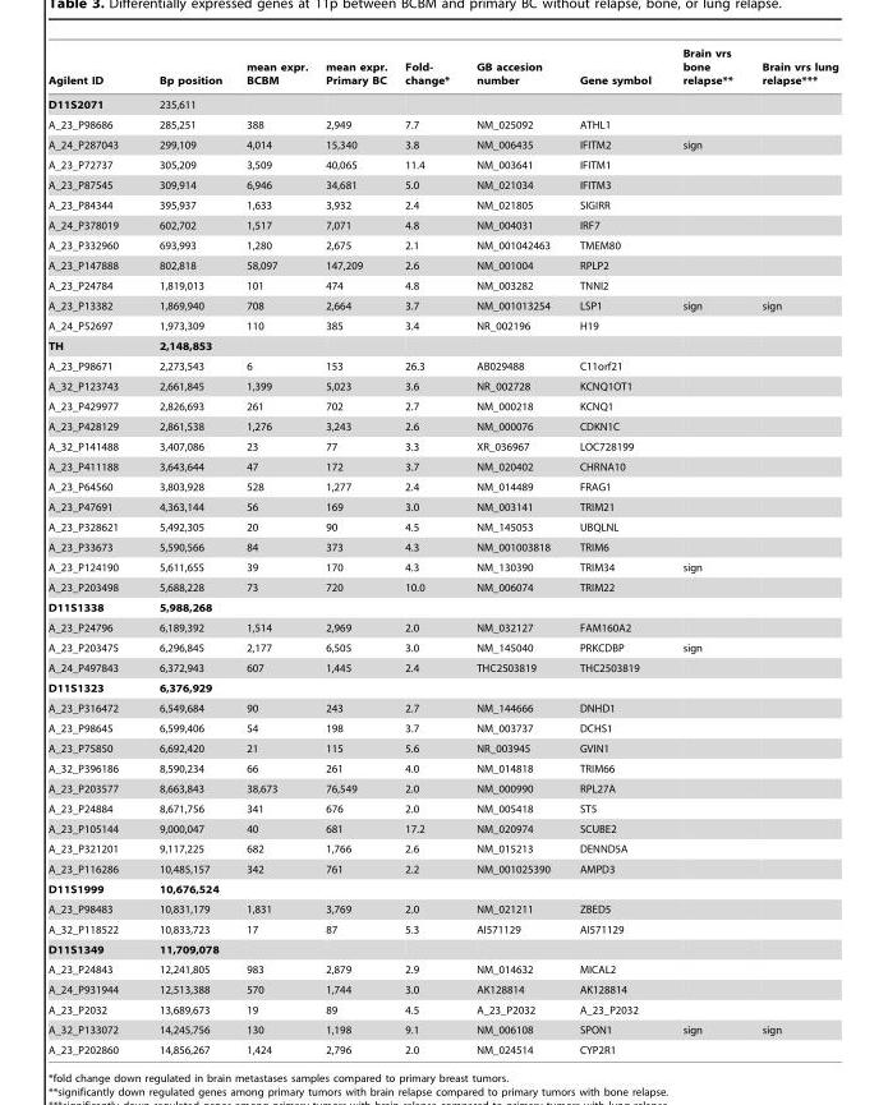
<table><thead><tr><td>Agilent ID</td><td>Bp position</td><td>mean expr. BCBM</td><td>mean expr. Primary BC</td><td>Fold- change*</td><td>GB accesion number</td><td>Gene symbol</td><td>Brain vrs bone relapse**</td><td>Brain vrs lung relapse***</td></tr></thead><tbody><tr><td>D11S2071</td><td>235,611</td><td></td><td></td><td></td><td></td><td></td><td></td><td></td></tr><tr><td>A_23_P98686</td><td>285,251</td><td>388</td><td>2,949</td><td>7.7</td><td>NM_025092</td><td>ATHL1</td><td></td><td></td></tr><tr><td>A_24_P287043</td><td>299,109</td><td>4,014</td><td>15,340</td><td>3.8</td><td>NM_006435</td><td>IFITM2</td><td>sign</td><td></td></tr><tr><td>A_23_P72737</td><td>305,209</td><td>3,509</td><td>40,065</td><td>11.4</td><td>NM_003641</td><td>IFITM1</td><td></td><td></td></tr><tr><td>A_23_P87545</td><td>309,914</td><td>6,946</td><td>34,681</td><td>5.0</td><td>NM_021034</td><td>IFITM3</td><td></td><td></td></tr><tr><td>A_23_P84344</td><td>395,937</td><td>1,633</td><td>3,932</td><td>2.4</td><td>NM_021805</td><td>SIGIRR</td><td></td><td></td></tr><tr><td>A_24_P378019</td><td>602,702</td><td>1,517</td><td>7,071</td><td>4.8</td><td>NM_004031</td><td>IRF7</td><td></td><td></td></tr><tr><td>A_23_P332960</td><td>693,993</td><td>1,280</td><td>2,675</td><td>2.1</td><td>NM_001042463</td><td>TMEM80</td><td></td><td></td></tr><tr><td>A_23_P147888</td><td>802,818</td><td>58,097</td><td>147,209</td><td>2.6</td><td>NM_001004</td><td>RPLP2</td><td></td><td></td></tr><tr><td>A_23_P24784</td><td>1,819,013</td><td>101</td><td>474</td><td>4.8</td><td>NM_003282</td><td>TNNI2</td><td></td><td></td></tr><tr><td>A_23_P13382</td><td>1,869,940</td><td>708</td><td>2,664</td><td>3.7</td><td>NM_001013254</td><td>LSP1</td><td>sign</td><td>sign</td></tr><tr><td>A_24_P52697</td><td>1,973,309</td><td>110</td><td>385</td><td>3.4</td><td>NR_002196</td><td>H19</td><td></td><td></td></tr><tr><td>TH</td><td>2,148,853</td><td></td><td></td><td></td><td></td><td></td><td></td><td></td></tr><tr><td>A_23_P98671</td><td>2,273,543</td><td>6</td><td>153</td><td>26.3</td><td>AB029488</td><td>C11orf21</td><td></td><td></td></tr><tr><td>A_32_P123743</td><td>2,661,845</td><td>1,399</td><td>5,023</td><td>3.6</td><td>NR_002728</td><td>KCNQ1OT1</td><td></td><td></td></tr><tr><td>A_23_P429977</td><td>2,826,693</td><td>261</td><td>702</td><td>2.7</td><td>NM_000218</td><td>KCNQ1</td><td></td><td></td></tr><tr><td>A_23_P428129</td><td>2,861,538</td><td>1,276</td><td>3,243</td><td>2.6</td><td>NM_000076</td><td>CDKN1C</td><td></td><td></td></tr><tr><td>A_32_P141488</td><td>3,407,086</td><td>23</td><td>77</td><td>3.3</td><td>XR_036967</td><td>LOC728199</td><td></td><td></td></tr><tr><td>A_23_P411188</td><td>3,643,644</td><td>47</td><td>172</td><td>3.7</td><td>NM_020402</td><td>CHRNA10</td><td></td><td></td></tr><tr><td>A_23_P64560</td><td>3,803,928</td><td>528</td><td>1,277</td><td>2.4</td><td>NM_014489</td><td>FRAG1</td><td></td><td></td></tr><tr><td>A_23_P47691</td><td>4,363,144</td><td>56</td><td>169</td><td>3.0</td><td>NM_003141</td><td>TRIM21</td><td></td><td></td></tr><tr><td>A_23_P328621</td><td>5,492,305</td><td>20</td><td>90</td><td>4.5</td><td>NM_145053</td><td>UBQLNL</td><td></td><td></td></tr><tr><td>A_23_P33673</td><td>5,590,566</td><td>84</td><td>373</td><td>4.3</td><td>NM_001003818</td><td>TRIM6</td><td></td><td></td></tr><tr><td>A_23_P124190</td><td>5,611,655</td><td>39</td><td>170</td><td>4.3</td><td>NM_130390</td><td>TRIM34</td><td>sign</td><td></td></tr><tr><td>A_23_P203498</td><td>5,688,228</td><td>73</td><td>720</td><td>10.0</td><td>NM_006074</td><td>TRIM22</td><td></td><td></td></tr><tr><td>D11S1338</td><td>5,988,268</td><td></td><td></td><td></td><td></td><td></td><td></td><td></td></tr><tr><td>A_23_P24796</td><td>6,189,392</td><td>1,514</td><td>2,969</td><td>2.0</td><td>NM_032127</td><td>FAM160A2</td><td></td><td></td></tr><tr><td>A_23_P203475</td><td>6,296,845</td><td>2,177</td><td>6,505</td><td>3.0</td><td>NM_145040</td><td>PRKCDBP</td><td>sign</td><td></td></tr><tr><td>A_24_P497843</td><td>6,372,943</td><td>607</td><td>1,445</td><td>2.4</td><td>THC2503819</td><td>THC2503819</td><td></td><td></td></tr><tr><td>D11S1323</td><td>6,376,929</td><td></td><td></td><td></td><td></td><td></td><td></td><td></td></tr><tr><td>A_23_P316472</td><td>6,549,684</td><td>90</td><td>243</td><td>2.7</td><td>NM_144666</td><td>DNHD1</td><td></td><td></td></tr><tr><td>A_23_P98645</td><td>6,599,406</td><td>54</td><td>198</td><td>3.7</td><td>NM_003737</td><td>DCHS1</td><td></td><td></td></tr><tr><td>A_23_P75850</td><td>6,692,420</td><td>21</td><td>115</td><td>5.6</td><td>NR_003945</td><td>GVIN1</td><td></td><td></td></tr><tr><td>A_32_P396186</td><td>8,590,234</td><td>66</td><td>261</td><td>4.0</td><td>NM_014818</td><td>TRIM66</td><td></td><td></td></tr><tr><td>A_23_P203577</td><td>8,663,843</td><td>38,673</td><td>76,549</td><td>2.0</td><td>NM_000990</td><td>RPL27A</td><td></td><td></td></tr><tr><td>A_23_P24884</td><td>8,671,756</td><td>341</td><td>676</td><td>2.0</td><td>NM_005418</td><td>ST5</td><td></td><td></td></tr><tr><td>A_23_P105144</td><td>9,000,047</td><td>40</td><td>681</td><td>17.2</td><td>NM_020974</td><td>SCUBE2</td><td></td><td></td></tr><tr><td>A_23_P321201</td><td>9,117,225</td><td>682</td><td>1,766</td><td>2.6</td><td>NM_015213</td><td>DENND5A</td><td></td><td></td></tr><tr><td>A_23_P116286</td><td>10,485,157</td><td>342</td><td>761</td><td>2.2</td><td>NM_001025390</td><td>AMPD3</td><td></td><td></td></tr><tr><td>D11S1999</td><td>10,676,524</td><td></td><td></td><td></td><td></td><td></td><td></td><td></td></tr><tr><td>A_23_P98483</td><td>10,831,179</td><td>1,831</td><td>3,769</td><td>2.0</td><td>NM_021211</td><td>ZBED5</td><td></td><td></td></tr><tr><td>A_32_P118522</td><td>10,833,723</td><td>17</td><td>87</td><td>5.3</td><td>AI571129</td><td>AI571129</td><td></td><td></td></tr><tr><td>D11S1349</td><td>11,709,078</td><td></td><td></td><td></td><td></td><td></td><td></td><td></td></tr><tr><td>A_23_P24843</td><td>12,241,805</td><td>983</td><td>2,879</td><td>2.9</td><td>NM_014632</td><td>MICAL2</td><td></td><td></td></tr><tr><td>A_24_P931944</td><td>12,513,388</td><td>570</td><td>1,744</td><td>3.0</td><td>AK128814</td><td>AK128814</td><td></td><td></td></tr><tr><td>A_23_P2032</td><td>13,689,673</td><td>19</td><td>89</td><td>4.5</td><td>A_23_P2032</td><td>A_23_P2032</td><td></td><td></td></tr><tr><td>A_32_P133072</td><td>14,245,756</td><td>130</td><td>1,198</td><td>9.1</td><td>NM_006108</td><td>SPON1</td><td>sign</td><td>sign</td></tr><tr><td>A_23_P202860</td><td>14,856,267</td><td>1,424</td><td>2,796</td><td>2.0</td><td>NM_024514</td><td>CYP2R1</td><td></td><td></td></tr></tbody></table>